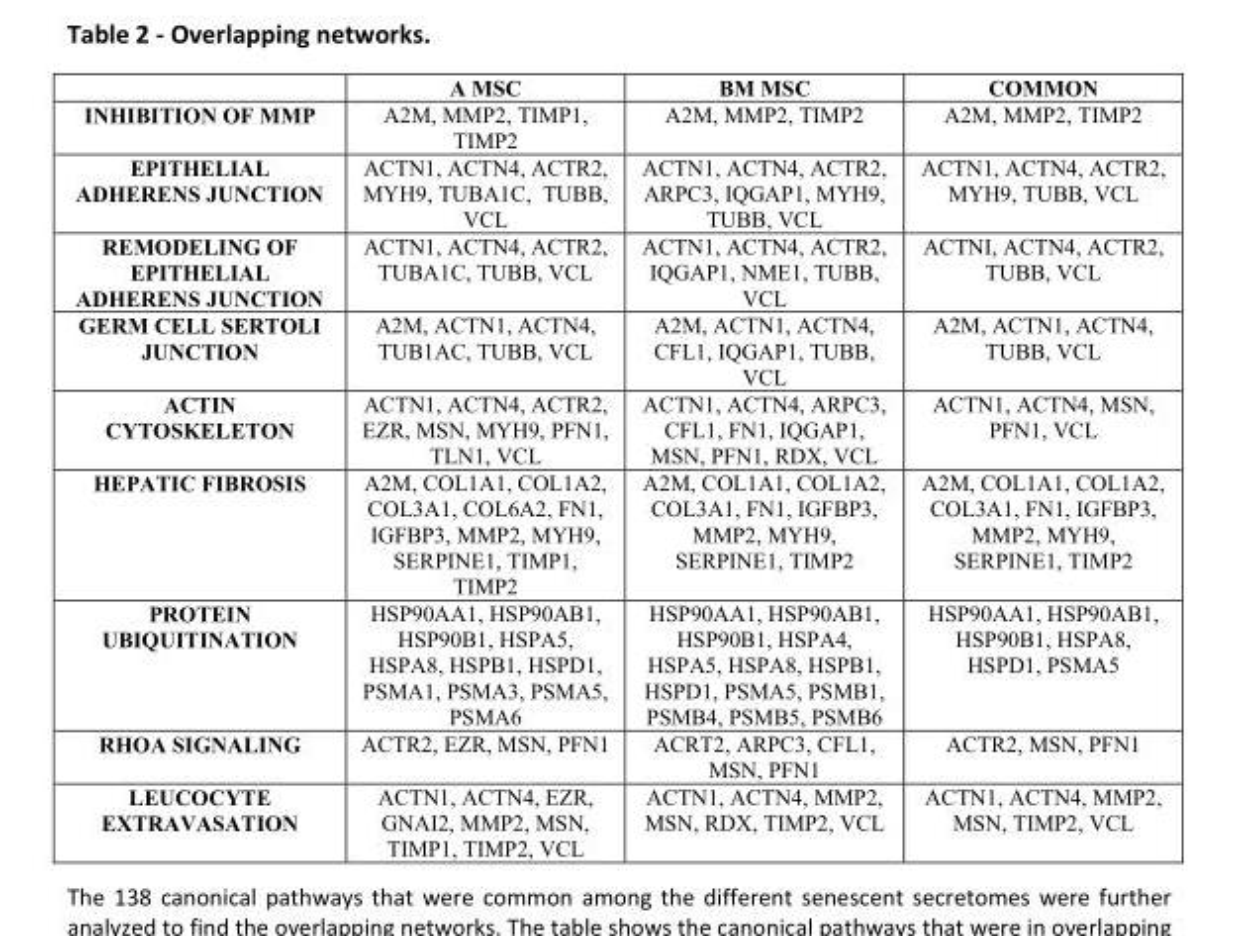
<table><thead><tr><td></td><td>A MSC</td><td>BM MSC</td><td>COMMON</td></tr></thead><tbody><tr><td>INHIBITION OF MMP</td><td>A2M, MMP2, TIMP1, TIMP2</td><td>A2M, MMP2, TIMP2</td><td>A2M, MMP2, TIMP2</td></tr><tr><td>EPITHELIAL ADHERENS JUNCTION</td><td>ACTN1, ACTN4, ACTR2, MYH9, TUBA1C, TUBB, VCL</td><td>ACTN1, ACTN4, ACTR2, ARPC3, IQGAP1, MYH9, TUBB, VCL</td><td>ACTN1, ACTN4, ACTR2, MYH9, TUBB, VCL</td></tr><tr><td>REMODELING OF EPITHELIAL ADHERENS JUNCTION</td><td>ACTN1, ACTN4, ACTR2, TUBA1C, TUBB, VCL</td><td>ACTN1, ACTN4, ACTR2, IQGAP1, NME1, TUBB, VCL</td><td>ACTNI, ACTN4, ACTR2, TUBB, VCL</td></tr><tr><td>GERM CELL SERTOLI JUNCTION</td><td>A2M, ACTN1, ACTN4, TUB1AC, TUBB, VCL</td><td>A2M, ACTN1, ACTN4, CFL1, IQGAP1, TUBB, VCL</td><td>A2M, ACTN1, ACTN4, TUBB, VCL</td></tr><tr><td>ACTIN CYTOSKELETON</td><td>ACTN1, ACTN4, ACTR2, EZR, MSN, MYH9, PFN1, TLN1, VCL</td><td>ACTN1, ACTN4, ARPC3, CFL1, FN1, IQGAP1, MSN, PFN1, RDX, VCL</td><td>ACTN1, ACTN4, MSN, PFN1, VCL</td></tr><tr><td>HEPATIC FIBROSIS</td><td>A2M, COL1A1, COL1A2, COL3A1, COL6A2, FN1, IGFBP3, MMP2, MYH9, SERPINE1, TIMP1, TIMP2</td><td>A2M, COL1A1, COL1A2, COL3A1, FN1, IGFBP3, MMP2, MYH9, SERPINE1, TIMP2</td><td>A2M, COL1A1, COL1A2, COL3A1, FN1, IGFBP3, MMP2, MYH9, SERPINE1, TIMP2</td></tr><tr><td>PROTEIN UBIQUITINATION</td><td>HSP90AA1, HSP90AB1, HSP90B1, HSPA5, HSPA8, HSPB1, HSPD1, PSMA1, PSMA3, PSMA5, PSMA6</td><td>HSP90AA1, HSP90AB1, HSP90B1, HSPA4, HSPA5, HSPA8, HSPB1, HSPD1, PSMA5, PSMB1, PSMB4, PSMB5, PSMB6</td><td>HSP90AA1, HSP90AB1, HSP90B1, HSPA8, HSPD1, PSMA5</td></tr><tr><td>RHOA SIGNALING</td><td>ACTR2, EZR, MSN, PFN1</td><td>ACRT2, ARPC3, CFL1, MSN, PFN1</td><td>ACTR2, MSN, PFN1</td></tr><tr><td>LEUCOCYTE EXTRAVASATION</td><td>ACTN1, ACTN4, EZR, GNAI2, MMP2, MSN, TIMP1, TIMP2, VCL</td><td>ACTN1, ACTN4, MMP2, MSN, RDX, TIMP2, VCL</td><td>ACTN1, ACTN4, MMP2, MSN, TIMP2, VCL</td></tr></tbody></table>